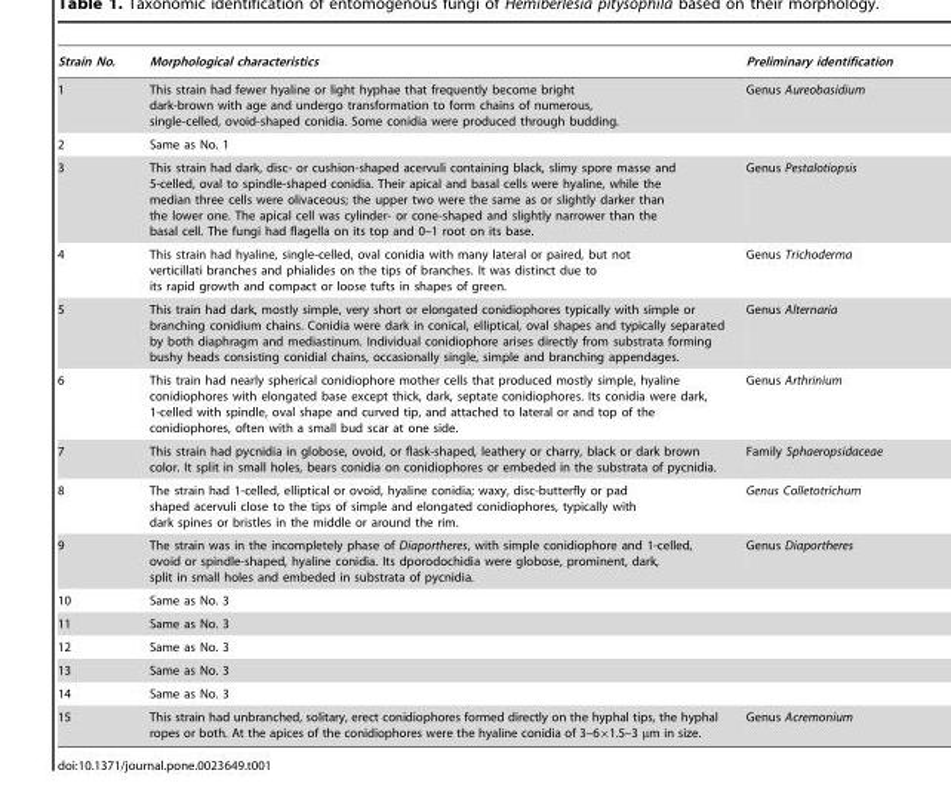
<table><thead><tr><td>Strain No.</td><td>Morphological characteristics</td><td>Preliminary identification</td></tr></thead><tbody><tr><td>1</td><td>This strain had fewer hyaline or light hyphae that frequently become bright dark-brown with age and undergo transformation to form chains of numerous, single-celled, ovoid-shaped conidia. Some conidia were produced through budding.</td><td>Genus Aureobasidium</td></tr><tr><td>2</td><td colspan="2">Same as No. 1</td></tr><tr><td>3</td><td>This strain had dark, disc- or cushion-shaped acervuli containing black, slimy spore masse and 5-celled, oval to spindle-shaped conidia. Their apical and basal cells were hyaline, while the median three cells were olivaceous; the upper two were the same as or slightly darker than the lower one. The apical cell was cylinder- or cone-shaped and slightly narrower than the basal cell. The fungi had flagella on its top and 0–1 root on its base.</td><td>Genus Pestalotiopsis</td></tr><tr><td>4</td><td>This strain had hyaline, single-celled, oval conidia with many lateral or paired, but not verticillati branches and phialides on the tips of branches. It was distinct due to its rapid growth and compact or loose tufts in shapes of green.</td><td>Genus Trichoderma</td></tr><tr><td>5</td><td>This train had dark, mostly simple, very short or elongated conidiophores typically with simple or branching conidium chains. Conidia were dark in conical, elliptical, oval shapes and typically separated by both diaphragm and mediastinum. Individual conidiophore arises directly from substrata forming bushy heads consisting conidial chains, occasionally single, simple and branching appendages.</td><td>Genus Alternaria</td></tr><tr><td>6</td><td>This train had nearly spherical conidiophore mother cells that produced mostly simple, hyaline conidiophores with elongated base except thick, dark, septate conidiophores. Its conidia were dark, 1-celled with spindle, oval shape and curved tip, and attached to lateral or and top of the conidiophores, often with a small bud scar at one side.</td><td>Genus Arthrinium</td></tr><tr><td>7</td><td>This strain had pycnidia in globose, ovoid, or flask-shaped, leathery or charry, black or dark brown color. It split in small holes, bears conidia on conidiophores or embeded in the substrata of pycnidia.</td><td>Family Sphaeropsidaceae</td></tr><tr><td>8</td><td>The strain had 1-celled, elliptical or ovoid, hyaline conidia; waxy, disc-butterfly or pad shaped acervuli close to the tips of simple and elongated conidiophores, typically with dark spines or bristles in the middle or around the rim.</td><td>Genus Colletotrichum</td></tr><tr><td>9</td><td>The strain was in the incompletely phase of Diaportheres, with simple conidiophore and 1-celled, ovoid or spindle-shaped, hyaline conidia. Its dporodochidia were globose, prominent, dark, split in small holes and embeded in substrata of pycnidia.</td><td>Genus Diaportheres</td></tr><tr><td>10</td><td colspan="2">Same as No. 3</td></tr><tr><td>11</td><td colspan="2">Same as No. 3</td></tr><tr><td>12</td><td colspan="2">Same as No. 3</td></tr><tr><td>13</td><td colspan="2">Same as No. 3</td></tr><tr><td>14</td><td colspan="2">Same as No. 3</td></tr><tr><td>15</td><td>This strain had unbranched, solitary, erect conidiophores formed directly on the hyphal tips, the hyphal ropes or both. At the apices of the conidiophores were the hyaline conidia of 3–6×1.5–3 µm in size.</td><td>Genus Acremonium</td></tr></tbody></table>